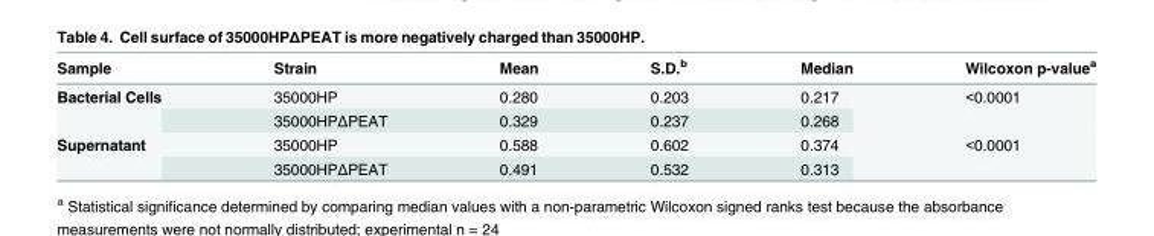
<table><thead><tr><td>Sample</td><td>Strain</td><td>Mean</td><td>S.D.<sup>b</sup></td><td>Median</td><td>Wilcoxon p-value<sup>a</sup></td></tr></thead><tbody><tr><td rowspan="2">Bacterial Cells</td><td>35000HP</td><td>0.280</td><td>0.203</td><td>0.217</td><td rowspan="2">&lt;0.0001</td></tr><tr><td>35000HPΔPEAT</td><td>0.329</td><td>0.237</td><td>0.268</td></tr><tr><td rowspan="2">Supernatant</td><td>35000HP</td><td>0.588</td><td>0.602</td><td>0.374</td><td rowspan="2">&lt;0.0001</td></tr><tr><td>35000HPΔPEAT</td><td>0.491</td><td>0.532</td><td>0.313</td></tr></tbody></table>